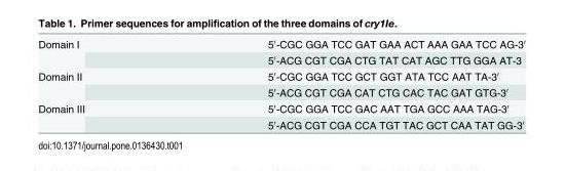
<table><tbody><tr><td rowspan="2">Domain I</td><td>5′-CGC GGA TCC GAT GAA ACT AAA GAA TCC AG-3′</td></tr><tr><td>5′-ACG CGT CGA CTG TAT CAT AGC TTG GGA AT-3</td></tr><tr><td rowspan="2">Domain II</td><td>5′-CGC GGA TCC GCT GGT ATA TCC AAT TA-3′</td></tr><tr><td>5′-ACG CGT CGA CAT CTG CAC TAC GAT GTG-3′</td></tr><tr><td rowspan="2">Domain III</td><td>5′-CGC GGA TCC GAC AAT TGA GCC AAA TAG-3′</td></tr><tr><td>5′-ACG CGT CGA CCA TGT TAC GCT CAA TAT GG-3′</td></tr></tbody></table>